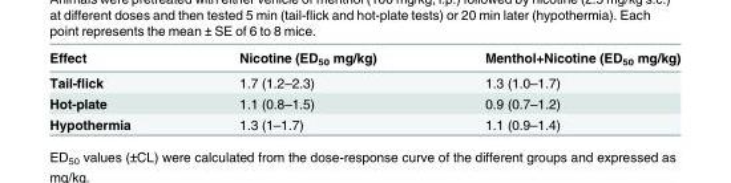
<table><thead><tr><td>Effect</td><td>Nicotine (ED<sub>50</sub> mg/kg)</td><td>Menthol+Nicotine (ED<sub>50</sub> mg/kg)</td></tr></thead><tbody><tr><td>Tail-flick</td><td>1.7 (1.2–2.3)</td><td>1.3 (1.0–1.7)</td></tr><tr><td>Hot-plate</td><td>1.1 (0.8–1.5)</td><td>0.9 (0.7–1.2)</td></tr><tr><td>Hypothermia</td><td>1.3 (1–1.7)</td><td>1.1 (0.9–1.4)</td></tr></tbody></table>